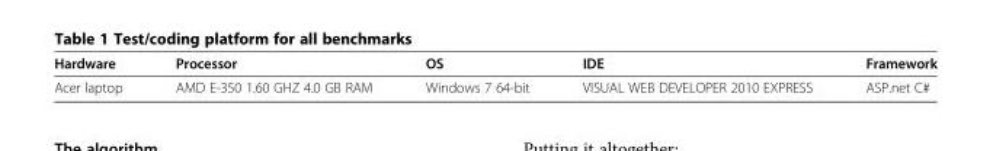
<table><thead><tr><td>Hardware</td><td>Processor</td><td>OS</td><td>IDE</td><td>Framework</td></tr></thead><tbody><tr><td>Acer laptop</td><td>AMD E-350 1.60 GHZ 4.0 GB RAM</td><td>Windows 7 64-bit</td><td>VISUAL WEB DEVELOPER 2010 EXPRESS</td><td>ASP.net C#</td></tr></tbody></table>